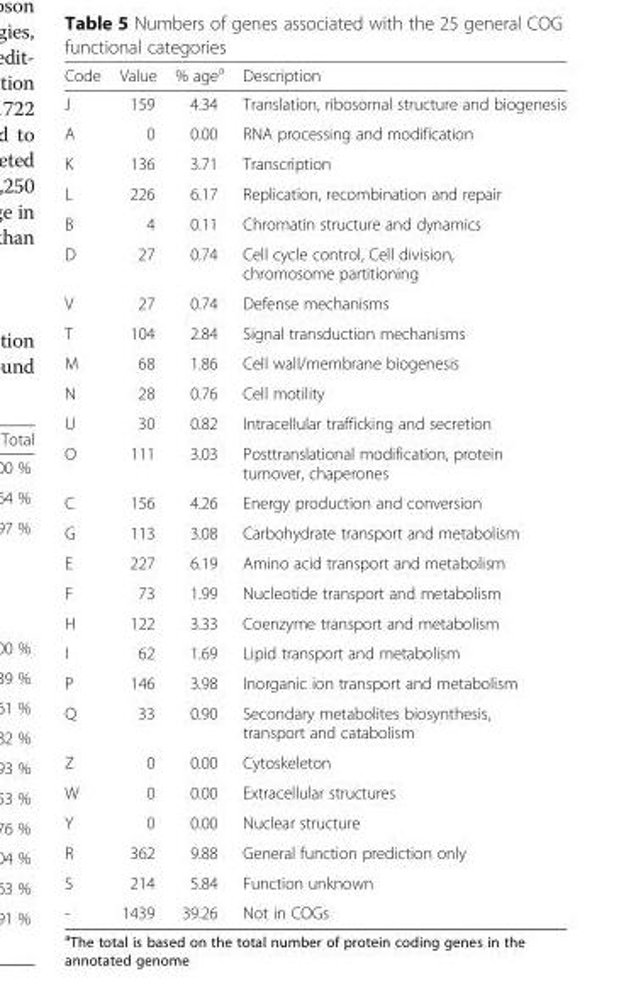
<table><thead><tr><td>Code</td><td>Value</td><td>% age<sup>a</sup></td><td>Description</td></tr></thead><tbody><tr><td>J</td><td>159</td><td>4.34</td><td>Translation, ribosomal structure and biogenesis</td></tr><tr><td>A</td><td>0</td><td>0.00</td><td>RNA processing and modification</td></tr><tr><td>K</td><td>136</td><td>3.71</td><td>Transcription</td></tr><tr><td>L</td><td>226</td><td>6.17</td><td>Replication, recombination and repair</td></tr><tr><td>B</td><td>4</td><td>0.11</td><td>Chromatin structure and dynamics</td></tr><tr><td>D</td><td>27</td><td>0.74</td><td>Cell cycle control, Cell division, chromosome partitioning</td></tr><tr><td>V</td><td>27</td><td>0.74</td><td>Defense mechanisms</td></tr><tr><td>T</td><td>104</td><td>2.84</td><td>Signal transduction mechanisms</td></tr><tr><td>M</td><td>68</td><td>1.86</td><td>Cell wall/membrane biogenesis</td></tr><tr><td>N</td><td>28</td><td>0.76</td><td>Cell motility</td></tr><tr><td>U</td><td>30</td><td>0.82</td><td>Intracellular trafficking and secretion</td></tr><tr><td>O</td><td>111</td><td>3.03</td><td>Posttranslational modification, protein turnover, chaperones</td></tr><tr><td>C</td><td>156</td><td>4.26</td><td>Energy production and conversion</td></tr><tr><td>G</td><td>113</td><td>3.08</td><td>Carbohydrate transport and metabolism</td></tr><tr><td>E</td><td>227</td><td>6.19</td><td>Amino acid transport and metabolism</td></tr><tr><td>F</td><td>73</td><td>1.99</td><td>Nucleotide transport and metabolism</td></tr><tr><td>H</td><td>122</td><td>3.33</td><td>Coenzyme transport and metabolism</td></tr><tr><td>I</td><td>62</td><td>1.69</td><td>Lipid transport and metabolism</td></tr><tr><td>P</td><td>146</td><td>3.98</td><td>Inorganic ion transport and metabolism</td></tr><tr><td>Q</td><td>33</td><td>0.90</td><td>Secondary metabolites biosynthesis, transport and catabolism</td></tr><tr><td>Z</td><td>0</td><td>0.00</td><td>Cytoskeleton</td></tr><tr><td>W</td><td>0</td><td>0.00</td><td>Extracellular structures</td></tr><tr><td>Y</td><td>0</td><td>0.00</td><td>Nuclear structure</td></tr><tr><td>R</td><td>362</td><td>9.88</td><td>General function prediction only</td></tr><tr><td>S</td><td>214</td><td>5.84</td><td>Function unknown</td></tr><tr><td>-</td><td>1439</td><td>39.26</td><td>Not in COGs</td></tr></tbody></table>